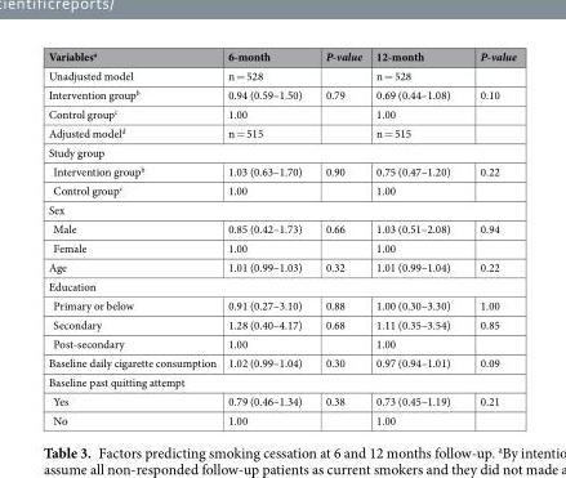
<table><thead><tr><td>Variables<sup>a</sup></td><td>6-month</td><td>P-value</td><td>12-month</td><td>P-value</td></tr></thead><tbody><tr><td>Unadjusted model</td><td>n = 528</td><td></td><td>n = 528</td><td></td></tr><tr><td>Intervention group<sup>b</sup></td><td>0.94 (0.59–1.50)</td><td>0.79</td><td>0.69 (0.44–1.08)</td><td>0.10</td></tr><tr><td>Control group<sup>c</sup></td><td>1.00</td><td></td><td>1.00</td><td></td></tr><tr><td>Adjusted model<sup>d</sup></td><td>n = 515</td><td></td><td>n = 515</td><td></td></tr><tr><td colspan="5">Study group</td></tr><tr><td>Intervention group<sup>b</sup></td><td>1.03 (0.63–1.70)</td><td>0.90</td><td>0.75 (0.47–1.20)</td><td>0.22</td></tr><tr><td>Control group<sup>c</sup></td><td>1.00</td><td></td><td>1.00</td><td></td></tr><tr><td colspan="5">Sex</td></tr><tr><td>Male</td><td>0.85 (0.42–1.73)</td><td>0.66</td><td>1.03 (0.51–2.08)</td><td>0.94</td></tr><tr><td>Female</td><td>1.00</td><td></td><td>1.00</td><td></td></tr><tr><td>Age</td><td>1.01 (0.99–1.03)</td><td>0.32</td><td>1.01 (0.99–1.04)</td><td>0.22</td></tr><tr><td colspan="5">Education</td></tr><tr><td>Primary or below</td><td>0.91 (0.27–3.10)</td><td>0.88</td><td>1.00 (0.30–3.30)</td><td>1.00</td></tr><tr><td>Secondary</td><td>1.28 (0.40–4.17)</td><td>0.68</td><td>1.11 (0.35–3.54)</td><td>0.85</td></tr><tr><td>Post-secondary</td><td>1.00</td><td></td><td>1.00</td><td></td></tr><tr><td>Baseline daily cigarette consumption</td><td>1.02 (0.99–1.04)</td><td>0.30</td><td>0.97 (0.94–1.01)</td><td>0.09</td></tr><tr><td colspan="5">Baseline past quitting attempt</td></tr><tr><td>Yes</td><td>0.79 (0.46–1.34)</td><td>0.38</td><td>0.73 (0.45–1.19)</td><td>0.21</td></tr><tr><td>No</td><td>1.00</td><td></td><td>1.00</td><td></td></tr></tbody></table>